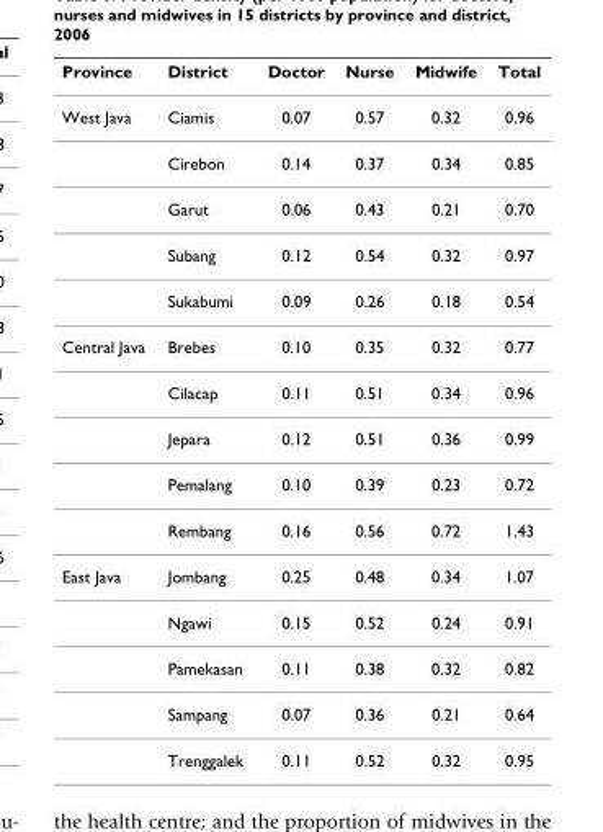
<table><thead><tr><td>Province</td><td>District</td><td>Doctor</td><td>Nurse</td><td>Midwife</td><td>Total</td></tr></thead><tbody><tr><td rowspan="5">West Java</td><td>Ciamis</td><td>0.07</td><td>0.57</td><td>0.32</td><td>0.96</td></tr><tr><td>Cirebon</td><td>0.14</td><td>0.37</td><td>0.34</td><td>0.85</td></tr><tr><td>Garut</td><td>0.06</td><td>0.43</td><td>0.21</td><td>0.70</td></tr><tr><td>Subang</td><td>0.12</td><td>0.54</td><td>0.32</td><td>0.97</td></tr><tr><td>Sukabumi</td><td>0.09</td><td>0.26</td><td>0.18</td><td>0.54</td></tr><tr><td rowspan="5">Central Java</td><td>Brebes</td><td>0.10</td><td>0.35</td><td>0.32</td><td>0.77</td></tr><tr><td>Cilacap</td><td>0.11</td><td>0.51</td><td>0.34</td><td>0.96</td></tr><tr><td>Jepara</td><td>0.12</td><td>0.51</td><td>0.36</td><td>0.99</td></tr><tr><td>Pemalang</td><td>0.10</td><td>0.39</td><td>0.23</td><td>0.72</td></tr><tr><td>Rembang</td><td>0.16</td><td>0.56</td><td>0.72</td><td>1.43</td></tr><tr><td rowspan="5">East Java</td><td>Jombang</td><td>0.25</td><td>0.48</td><td>0.34</td><td>1.07</td></tr><tr><td>Ngawi</td><td>0.15</td><td>0.52</td><td>0.24</td><td>0.91</td></tr><tr><td>Pamekasan</td><td>0.11</td><td>0.38</td><td>0.32</td><td>0.82</td></tr><tr><td>Sampang</td><td>0.07</td><td>0.36</td><td>0.21</td><td>0.64</td></tr><tr><td>Trenggalek</td><td>0.11</td><td>0.52</td><td>0.32</td><td>0.95</td></tr></tbody></table>